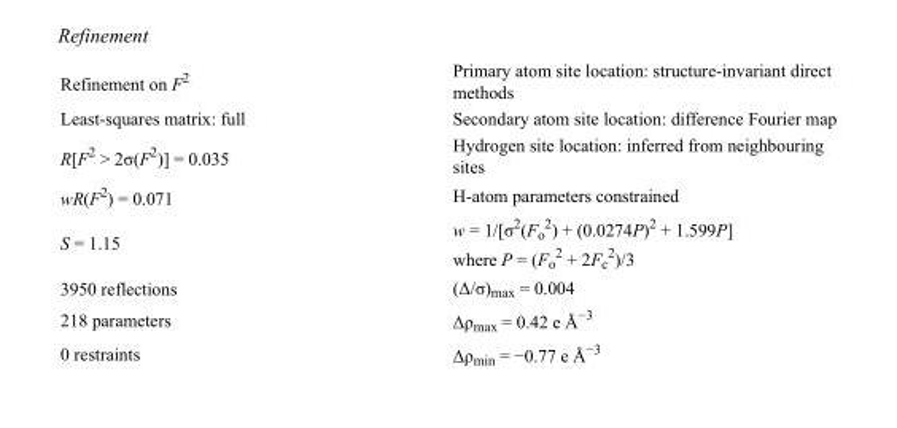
<table><tbody><tr><td>Refinement on F<sup>2</sup></td><td>Primary atom site location: structure-invariant direct methods</td></tr><tr><td>Least-squares matrix: full</td><td>Secondary atom site location: difference Fourier map</td></tr><tr><td>R[F<sup>2</sup> &gt; 2σ(F<sup>2</sup>)] = 0.035</td><td>Hydrogen site location: inferred from neighbouring sites</td></tr><tr><td>wR(F<sup>2</sup>) = 0.071</td><td>H-atom parameters constrained</td></tr><tr><td>S = 1.15</td><td>w = 1/[σ<sup>2</sup>(F<sub>o</sub> <sup>2</sup>) + (0.0274P)<sup>2</sup> + 1.599P] where P = (F<sub>o</sub> <sup>2</sup> + 2F<sub>c</sub> <sup>2</sup>)/3</td></tr><tr><td>3950 reflections</td><td>(Δ/σ)<sub>max</sub> = 0.004</td></tr><tr><td>218 parameters</td><td>Δρ<sub>max</sub> = 0.42 e Å<sup>−3</sup></td></tr><tr><td>0 restraints</td><td>Δρ<sub>min</sub> = −0.77 e Å<sup>−3</sup></td></tr></tbody></table>